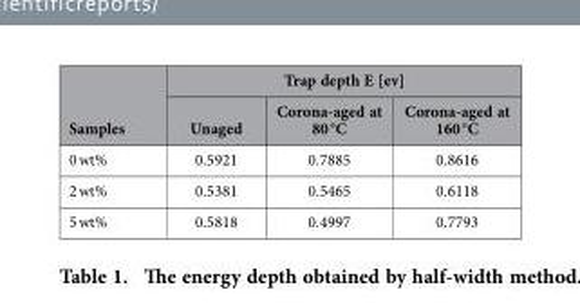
<table><thead><tr><td rowspan="2">Samples</td><td colspan="3">Trap depth E [ev]</td></tr><tr><td>Unaged</td><td>Corona-aged at 80 °C</td><td>Corona-aged at 160 °C</td></tr></thead><tbody><tr><td>0 wt%</td><td>0.5921</td><td>0.7885</td><td>0.8616</td></tr><tr><td>2 wt%</td><td>0.5381</td><td>0.5465</td><td>0.6118</td></tr><tr><td>5 wt%</td><td>0.5818</td><td>0.4997</td><td>0.7793</td></tr></tbody></table>